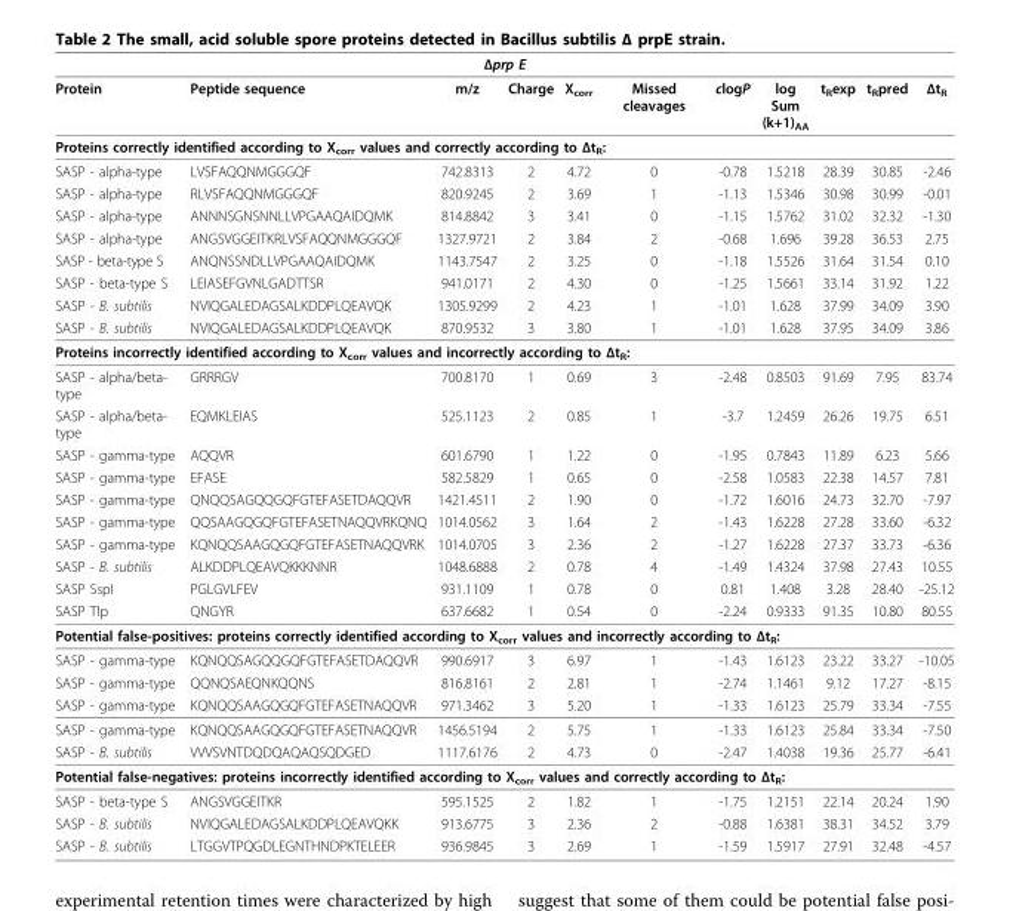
<table><thead><tr><td colspan="11">Δprp E</td></tr><tr><td>Protein</td><td>Peptide sequence</td><td>m/z</td><td>Charge</td><td>X<sub>corr</sub></td><td>Missed cleavages</td><td>clogP</td><td>log Sum (k+1)<sub>AA</sub></td><td>t<sub>R</sub>exp</td><td>t<sub>R</sub>pred</td><td>Δt<sub>R</sub></td></tr></thead><tbody><tr><td colspan="11">Proteins correctly identified according to X<sub>corr</sub> values and correctly according to Δt<sub>R</sub>:</td></tr><tr><td>SASP - alpha-type</td><td>LVSFAQQNMGGGQF</td><td>742.8313</td><td>2</td><td>4.72</td><td>0</td><td>-0.78</td><td>1.5218</td><td>28.39</td><td>30.85</td><td>-2.46</td></tr><tr><td>SASP - alpha-type</td><td>RLVSFAQQNMGGGQF</td><td>820.9245</td><td>2</td><td>3.69</td><td>1</td><td>-1.13</td><td>1.5346</td><td>30.98</td><td>30.99</td><td>-0.01</td></tr><tr><td>SASP - alpha-type</td><td>ANNNSGNSNNLLVPGAAQAIDQMK</td><td>814.8842</td><td>3</td><td>3.41</td><td>0</td><td>-1.15</td><td>1.5762</td><td>31.02</td><td>32.32</td><td>-1.30</td></tr><tr><td>SASP - alpha-type</td><td>ANGSVGGEITKRLVSFAQQNMGGGQF</td><td>1327.9721</td><td>2</td><td>3.84</td><td>2</td><td>-0.68</td><td>1.696</td><td>39.28</td><td>36.53</td><td>2.75</td></tr><tr><td>SASP - beta-type S</td><td>ANQNSSNDLLVPGAAQAIDQMK</td><td>1143.7547</td><td>2</td><td>3.25</td><td>0</td><td>-1.18</td><td>1.5526</td><td>31.64</td><td>31.54</td><td>0.10</td></tr><tr><td>SASP - beta-type S</td><td>LEIASEFGVNLGADTTSR</td><td>941.0171</td><td>2</td><td>4.30</td><td>0</td><td>-1.25</td><td>1.5661</td><td>33.14</td><td>31.92</td><td>1.22</td></tr><tr><td>SASP - B. subtilis</td><td>NVIQGALEDAGSALKDDPLQEAVQK</td><td>1305.9299</td><td>2</td><td>4.23</td><td>1</td><td>-1.01</td><td>1.628</td><td>37.99</td><td>34.09</td><td>3.90</td></tr><tr><td>SASP - B. subtilis</td><td>NVIQGALEDAGSALKDDPLQEAVQK</td><td>870.9532</td><td>3</td><td>3.80</td><td>1</td><td>-1.01</td><td>1.628</td><td>37.95</td><td>34.09</td><td>3.86</td></tr><tr><td colspan="11">Proteins incorrectly identified according to X<sub>corr</sub> values and incorrectly according to Δt<sub>R</sub>:</td></tr><tr><td>SASP - alpha/beta- type</td><td>GRRRGV</td><td>700.8170</td><td>1</td><td>0.69</td><td>3</td><td>-2.48</td><td>0.8503</td><td>91.69</td><td>7.95</td><td>83.74</td></tr><tr><td>SASP - alpha/beta- type</td><td>EQMKLEIAS</td><td>525.1123</td><td>2</td><td>0.85</td><td>1</td><td>-3.7</td><td>1.2459</td><td>26.26</td><td>19.75</td><td>6.51</td></tr><tr><td>SASP - gamma-type</td><td>AQQVR</td><td>601.6790</td><td>1</td><td>1.22</td><td>0</td><td>-1.95</td><td>0.7843</td><td>11.89</td><td>6.23</td><td>5.66</td></tr><tr><td>SASP - gamma-type</td><td>EFASE</td><td>582.5829</td><td>1</td><td>0.65</td><td>0</td><td>-2.58</td><td>1.0583</td><td>22.38</td><td>14.57</td><td>7.81</td></tr><tr><td>SASP - gamma-type</td><td>QNQQSAGQQGQFGTEFASETDAQQVR</td><td>1421.4511</td><td>2</td><td>1.90</td><td>0</td><td>-1.72</td><td>1.6016</td><td>24.73</td><td>32.70</td><td>-7.97</td></tr><tr><td>SASP - gamma-type</td><td>QQSAAGQGQFGTEFASETNAQQVRKQNQ</td><td>1014.0562</td><td>3</td><td>1.64</td><td>2</td><td>-1.43</td><td>1.6228</td><td>27.28</td><td>33.60</td><td>-6.32</td></tr><tr><td>SASP - gamma-type</td><td>KQNQQSAAGQGQFGTEFASETNAQQVRK</td><td>1014.0705</td><td>3</td><td>2.36</td><td>2</td><td>-1.27</td><td>1.6228</td><td>27.37</td><td>33.73</td><td>-6.36</td></tr><tr><td>SASP - B. subtilis</td><td>ALKDDPLQEAVQKKKNNR</td><td>1048.6888</td><td>2</td><td>0.78</td><td>4</td><td>-1.49</td><td>1.4324</td><td>37.98</td><td>27.43</td><td>10.55</td></tr><tr><td>SASP SspI</td><td>PGLGVLFEV</td><td>931.1109</td><td>1</td><td>0.78</td><td>0</td><td>0.81</td><td>1.408</td><td>3.28</td><td>28.40</td><td>-25.12</td></tr><tr><td>SASP Tlp</td><td>QNGYR</td><td>637.6682</td><td>1</td><td>0.54</td><td>0</td><td>-2.24</td><td>0.9333</td><td>91.35</td><td>10.80</td><td>80.55</td></tr><tr><td colspan="11">Potential false-positives: proteins correctly identified according to X<sub>corr</sub> values and incorrectly according to Δt<sub>R</sub>:</td></tr><tr><td>SASP - gamma-type</td><td>KQNQQSAGQQGQFGTEFASETDAQQVR</td><td>990.6917</td><td>3</td><td>6.97</td><td>1</td><td>-1.43</td><td>1.6123</td><td>23.22</td><td>33.27</td><td>-10.05</td></tr><tr><td>SASP - gamma-type</td><td>QQNQSAEQNKQQNS</td><td>816.8161</td><td>2</td><td>2.81</td><td>1</td><td>-2.74</td><td>1.1461</td><td>9.12</td><td>17.27</td><td>-8.15</td></tr><tr><td>SASP - gamma-type</td><td>KQNQQSAAGQGQFGTEFASETNAQQVR</td><td>971.3462</td><td>3</td><td>5.20</td><td>1</td><td>-1.33</td><td>1.6123</td><td>25.79</td><td>33.34</td><td>-7.55</td></tr><tr><td>SASP - gamma-type</td><td>KQNQQSAAGQGQFGTEFASETNAQQVR</td><td>1456.5194</td><td>2</td><td>5.75</td><td>1</td><td>-1.33</td><td>1.6123</td><td>25.84</td><td>33.34</td><td>-7.50</td></tr><tr><td>SASP - B. subtilis</td><td>VVVSVNTDQDQAQAQSQDGED</td><td>1117.6176</td><td>2</td><td>4.73</td><td>0</td><td>-2.47</td><td>1.4038</td><td>19.36</td><td>25.77</td><td>-6.41</td></tr><tr><td colspan="11">Potential false-negatives: proteins incorrectly identified according to X<sub>corr</sub> values and correctly according to Δt<sub>R</sub>:</td></tr><tr><td>SASP - beta-type S</td><td>ANGSVGGEITKR</td><td>595.1525</td><td>2</td><td>1.82</td><td>1</td><td>-1.75</td><td>1.2151</td><td>22.14</td><td>20.24</td><td>1.90</td></tr><tr><td>SASP - B. subtilis</td><td>NVIQGALEDAGSALKDDPLQEAVQKK</td><td>913.6775</td><td>3</td><td>2.36</td><td>2</td><td>-0.88</td><td>1.6381</td><td>38.31</td><td>34.52</td><td>3.79</td></tr><tr><td>SASP - B. subtilis</td><td>LTGGVTPQGDLEGNTHNDPKTELEER</td><td>936.9845</td><td>3</td><td>2.69</td><td>1</td><td>-1.59</td><td>1.5917</td><td>27.91</td><td>32.48</td><td>-4.57</td></tr></tbody></table>